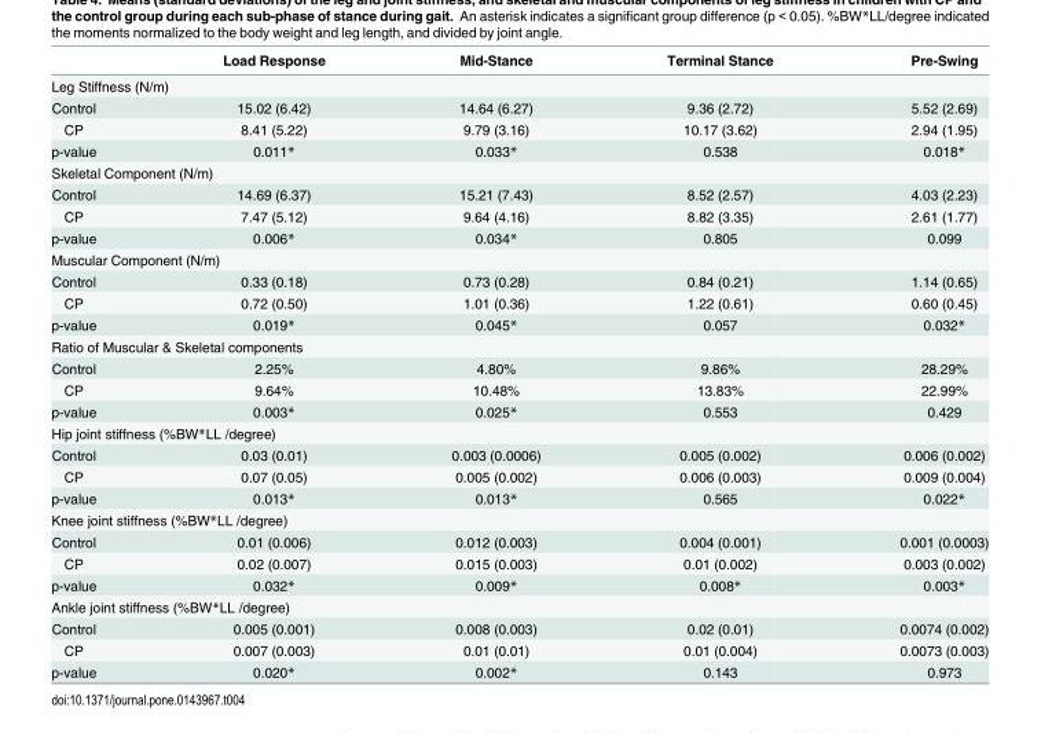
<table><thead><tr><td></td><td>Load Response</td><td>Mid-Stance</td><td>Terminal Stance</td><td>Pre-Swing</td></tr></thead><tbody><tr><td colspan="5">Leg Stiffness (N/m)</td></tr><tr><td>Control</td><td>15.02 (6.42)</td><td>14.64 (6.27)</td><td>9.36 (2.72)</td><td>5.52 (2.69)</td></tr><tr><td>CP</td><td>8.41 (5.22)</td><td>9.79 (3.16)</td><td>10.17 (3.62)</td><td>2.94 (1.95)</td></tr><tr><td>p-value</td><td>0.011*</td><td>0.033*</td><td>0.538</td><td>0.018*</td></tr><tr><td colspan="5">Skeletal Component (N/m)</td></tr><tr><td>Control</td><td>14.69 (6.37)</td><td>15.21 (7.43)</td><td>8.52 (2.57)</td><td>4.03 (2.23)</td></tr><tr><td>CP</td><td>7.47 (5.12)</td><td>9.64 (4.16)</td><td>8.82 (3.35)</td><td>2.61 (1.77)</td></tr><tr><td>p-value</td><td>0.006*</td><td>0.034*</td><td>0.805</td><td>0.099</td></tr><tr><td colspan="5">Muscular Component (N/m)</td></tr><tr><td>Control</td><td>0.33 (0.18)</td><td>0.73 (0.28)</td><td>0.84 (0.21)</td><td>1.14 (0.65)</td></tr><tr><td>CP</td><td>0.72 (0.50)</td><td>1.01 (0.36)</td><td>1.22 (0.61)</td><td>0.60 (0.45)</td></tr><tr><td>p-value</td><td>0.019*</td><td>0.045*</td><td>0.057</td><td>0.032*</td></tr><tr><td colspan="5">Ratio of Muscular &amp; Skeletal components</td></tr><tr><td>Control</td><td>2.25%</td><td>4.80%</td><td>9.86%</td><td>28.29%</td></tr><tr><td>CP</td><td>9.64%</td><td>10.48%</td><td>13.83%</td><td>22.99%</td></tr><tr><td>p-value</td><td>0.003*</td><td>0.025*</td><td>0.553</td><td>0.429</td></tr><tr><td colspan="5">Hip joint stiffness (%BW*LL /degree)</td></tr><tr><td>Control</td><td>0.03 (0.01)</td><td>0.003 (0.0006)</td><td>0.005 (0.002)</td><td>0.006 (0.002)</td></tr><tr><td>CP</td><td>0.07 (0.05)</td><td>0.005 (0.002)</td><td>0.006 (0.003)</td><td>0.009 (0.004)</td></tr><tr><td>p-value</td><td>0.013*</td><td>0.013*</td><td>0.565</td><td>0.022*</td></tr><tr><td colspan="5">Knee joint stiffness (%BW*LL /degree)</td></tr><tr><td>Control</td><td>0.01 (0.006)</td><td>0.012 (0.003)</td><td>0.004 (0.001)</td><td>0.001 (0.0003)</td></tr><tr><td>CP</td><td>0.02 (0.007)</td><td>0.015 (0.003)</td><td>0.01 (0.002)</td><td>0.003 (0.002)</td></tr><tr><td>p-value</td><td>0.032*</td><td>0.009*</td><td>0.008*</td><td>0.003*</td></tr><tr><td colspan="5">Ankle joint stiffness (%BW*LL /degree)</td></tr><tr><td>Control</td><td>0.005 (0.001)</td><td>0.008 (0.003)</td><td>0.02 (0.01)</td><td>0.0074 (0.002)</td></tr><tr><td>CP</td><td>0.007 (0.003)</td><td>0.01 (0.01)</td><td>0.01 (0.004)</td><td>0.0073 (0.003)</td></tr><tr><td>p-value</td><td>0.020*</td><td>0.002*</td><td>0.143</td><td>0.973</td></tr></tbody></table>